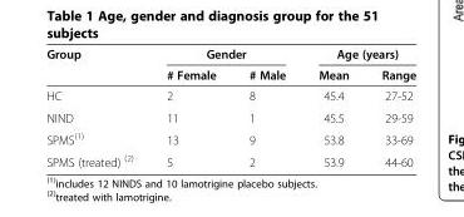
<table><thead><tr><td rowspan="2">Group</td><td colspan="2">Gender</td><td colspan="2">Age (years)</td></tr><tr><td># Female</td><td># Male</td><td>Mean</td><td>Range</td></tr></thead><tbody><tr><td>HC</td><td>2</td><td>8</td><td>45.4</td><td>27-52</td></tr><tr><td>NIND</td><td>11</td><td>1</td><td>45.5</td><td>29-59</td></tr><tr><td>SPMS<sup>(1)</sup></td><td>13</td><td>9</td><td>53.8</td><td>33-69</td></tr><tr><td>SPMS (treated) <sup>(2)</sup></td><td>5</td><td>2</td><td>53.9</td><td>44-60</td></tr></tbody></table>